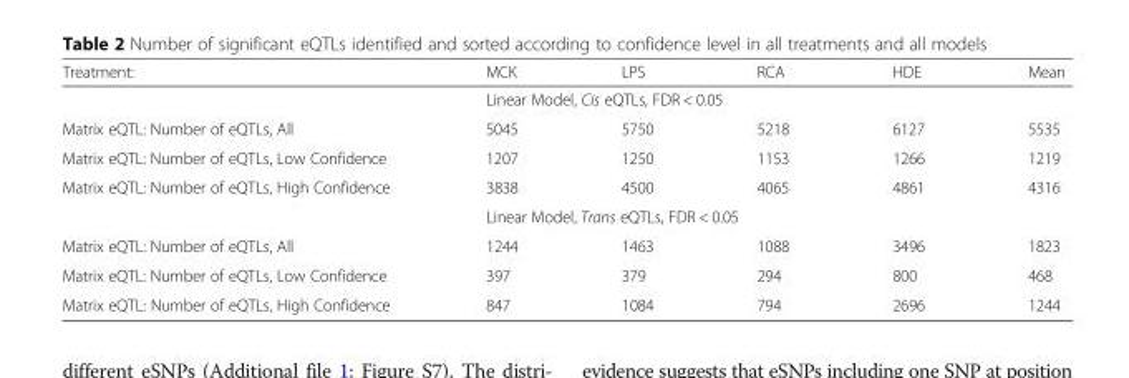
<table><thead><tr><td>Treatment:</td><td>MCK</td><td>LPS</td><td>RCA</td><td>HDE</td><td>Mean</td></tr></thead><tbody><tr><td></td><td colspan="5">Linear Model, Cis eQTLs, FDR &lt; 0.05</td></tr><tr><td>Matrix eQTL: Number of eQTLs, All</td><td>5045</td><td>5750</td><td>5218</td><td>6127</td><td>5535</td></tr><tr><td>Matrix eQTL: Number of eQTLs, Low Confidence</td><td>1207</td><td>1250</td><td>1153</td><td>1266</td><td>1219</td></tr><tr><td rowspan="2">Matrix eQTL: Number of eQTLs, High Confidence</td><td>3838</td><td>4500</td><td>4065</td><td>4861</td><td>4316</td></tr><tr><td colspan="5">Linear Model, Trans eQTLs, FDR &lt; 0.05</td></tr><tr><td>Matrix eQTL: Number of eQTLs, All</td><td>1244</td><td>1463</td><td>1088</td><td>3496</td><td>1823</td></tr><tr><td>Matrix eQTL: Number of eQTLs, Low Confidence</td><td>397</td><td>379</td><td>294</td><td>800</td><td>468</td></tr><tr><td>Matrix eQTL: Number of eQTLs, High Confidence</td><td>847</td><td>1084</td><td>794</td><td>2696</td><td>1244</td></tr></tbody></table>